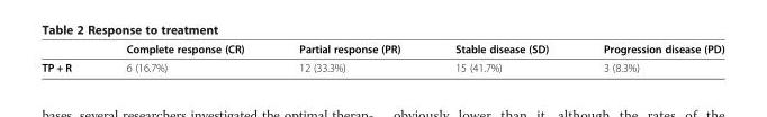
<table><thead><tr><td></td><td>Complete response (CR)</td><td>Partial response (PR)</td><td>Stable disease (SD)</td><td>Progression disease (PD)</td></tr></thead><tbody><tr><td>TP + R</td><td>6 (16.7%)</td><td>12 (33.3%)</td><td>15 (41.7%)</td><td>3 (8.3%)</td></tr></tbody></table>